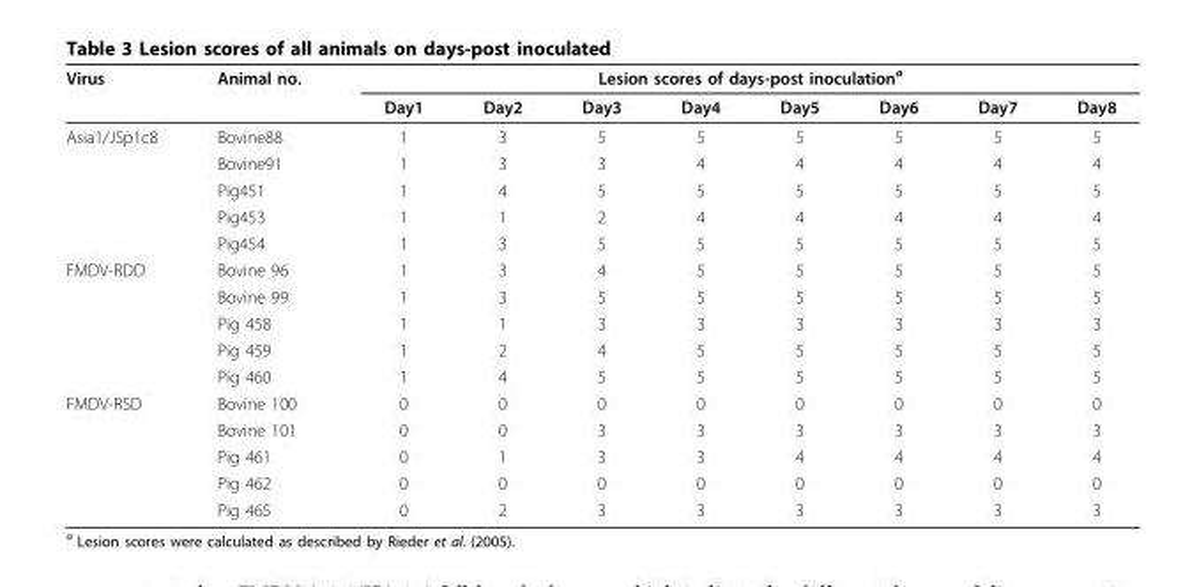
<table><thead><tr><td rowspan="2">Virus</td><td rowspan="2">Animal no.</td><td colspan="8">Lesion scores of days-post inoculation<sup>a</sup></td></tr><tr><td>Day1</td><td>Day2</td><td>Day3</td><td>Day4</td><td>Day5</td><td>Day6</td><td>Day7</td><td>Day8</td></tr></thead><tbody><tr><td rowspan="5">Asia1/JSp1c8</td><td>Bovine88</td><td>1</td><td>3</td><td>5</td><td>5</td><td>5</td><td>5</td><td>5</td><td>5</td></tr><tr><td>Bovine91</td><td>1</td><td>3</td><td>3</td><td>4</td><td>4</td><td>4</td><td>4</td><td>4</td></tr><tr><td>Pig451</td><td>1</td><td>4</td><td>5</td><td>5</td><td>5</td><td>5</td><td>5</td><td>5</td></tr><tr><td>Pig453</td><td>1</td><td>1</td><td>2</td><td>4</td><td>4</td><td>4</td><td>4</td><td>4</td></tr><tr><td>Pig454</td><td>1</td><td>3</td><td>5</td><td>5</td><td>5</td><td>5</td><td>5</td><td>5</td></tr><tr><td rowspan="5">FMDV-RDD</td><td>Bovine 96</td><td>1</td><td>3</td><td>4</td><td>5</td><td>5</td><td>5</td><td>5</td><td>5</td></tr><tr><td>Bovine 99</td><td>1</td><td>3</td><td>5</td><td>5</td><td>5</td><td>5</td><td>5</td><td>5</td></tr><tr><td>Pig 458</td><td>1</td><td>1</td><td>3</td><td>3</td><td>3</td><td>3</td><td>3</td><td>3</td></tr><tr><td>Pig 459</td><td>1</td><td>2</td><td>4</td><td>5</td><td>5</td><td>5</td><td>5</td><td>5</td></tr><tr><td>Pig 460</td><td>1</td><td>4</td><td>5</td><td>5</td><td>5</td><td>5</td><td>5</td><td>5</td></tr><tr><td rowspan="5">FMDV-RSD</td><td>Bovine 100</td><td>0</td><td>0</td><td>0</td><td>0</td><td>0</td><td>0</td><td>0</td><td>0</td></tr><tr><td>Bovine 101</td><td>0</td><td>0</td><td>3</td><td>3</td><td>3</td><td>3</td><td>3</td><td>3</td></tr><tr><td>Pig 461</td><td>0</td><td>1</td><td>3</td><td>3</td><td>4</td><td>4</td><td>4</td><td>4</td></tr><tr><td>Pig 462</td><td>0</td><td>0</td><td>0</td><td>0</td><td>0</td><td>0</td><td>0</td><td>0</td></tr><tr><td>Pig 465</td><td>0</td><td>2</td><td>3</td><td>3</td><td>3</td><td>3</td><td>3</td><td>3</td></tr></tbody></table>